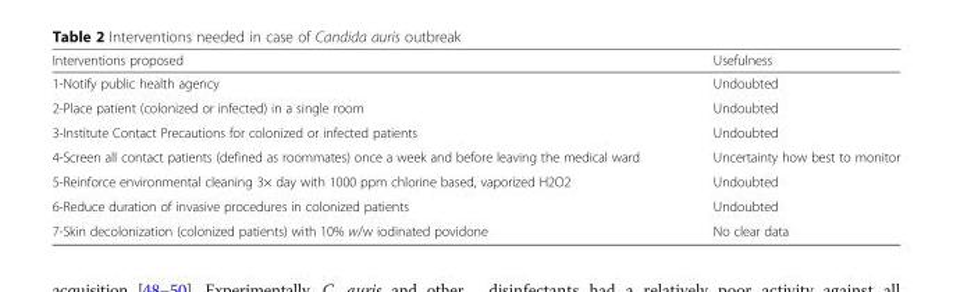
<table><thead><tr><td>Interventions proposed</td><td>Usefulness</td></tr></thead><tbody><tr><td>1-Notify public health agency</td><td>Undoubted</td></tr><tr><td>2-Place patient (colonized or infected) in a single room</td><td>Undoubted</td></tr><tr><td>3-Institute Contact Precautions for colonized or infected patients</td><td>Undoubted</td></tr><tr><td>4-Screen all contact patients (defined as roommates) once a week and before leaving the medical ward</td><td>Uncertainty how best to monitor</td></tr><tr><td>5-Reinforce environmental cleaning 3× day with 1000 ppm chlorine based, vaporized H2O2</td><td>Undoubted</td></tr><tr><td>6-Reduce duration of invasive procedures in colonized patients</td><td>Undoubted</td></tr><tr><td>7-Skin decolonization (colonized patients) with 10% w/w iodinated povidone</td><td>No clear data</td></tr></tbody></table>